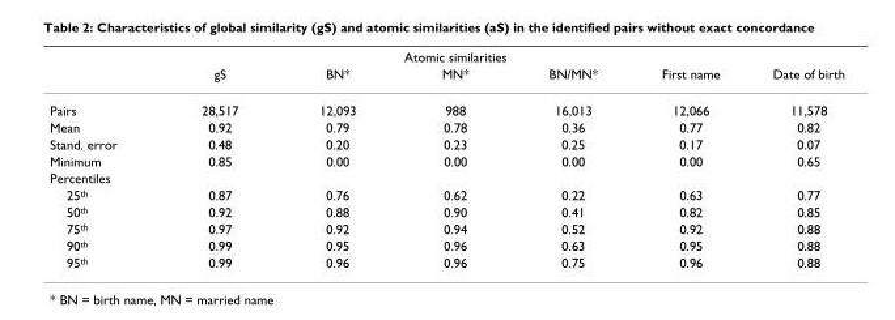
<table><thead><tr><td colspan="7">Atomic similarities</td></tr><tr><td></td><td>gS</td><td>BN*</td><td>MN*</td><td>BN/MN*</td><td>First name</td><td>Date of birth</td></tr></thead><tbody><tr><td>Pairs</td><td>28,517</td><td>12,093</td><td>988</td><td>16,013</td><td>12,066</td><td>11,578</td></tr><tr><td>Mean</td><td>0.92</td><td>0.79</td><td>0.78</td><td>0.36</td><td>0.77</td><td>0.82</td></tr><tr><td>Stand. error</td><td>0.48</td><td>0.20</td><td>0.23</td><td>0.25</td><td>0.17</td><td>0.07</td></tr><tr><td>Minimum</td><td>0.85</td><td>0.00</td><td>0.00</td><td>0.00</td><td>0.00</td><td>0.65</td></tr><tr><td colspan="7">Percentiles</td></tr><tr><td>25<sup>th</sup></td><td>0.87</td><td>0.76</td><td>0.62</td><td>0.22</td><td>0.63</td><td>0.77</td></tr><tr><td>50<sup>th</sup></td><td>0.92</td><td>0.88</td><td>0.90</td><td>0.41</td><td>0.82</td><td>0.85</td></tr><tr><td>75<sup>th</sup></td><td>0.97</td><td>0.92</td><td>0.94</td><td>0.52</td><td>0.92</td><td>0.88</td></tr><tr><td>90<sup>th</sup></td><td>0.99</td><td>0.95</td><td>0.96</td><td>0.63</td><td>0.95</td><td>0.88</td></tr><tr><td>95<sup>th</sup></td><td>0.99</td><td>0.96</td><td>0.96</td><td>0.75</td><td>0.96</td><td>0.88</td></tr></tbody></table>